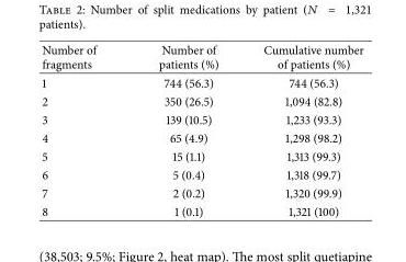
<table><thead><tr><td>Number of fragments</td><td>Number of patients (%)</td><td>Cumulative number of patients (%)</td></tr></thead><tbody><tr><td>1</td><td>744 (56.3)</td><td>744 (56.3)</td></tr><tr><td>2</td><td>350 (26.5)</td><td>1,094 (82.8)</td></tr><tr><td>3</td><td>139 (10.5)</td><td>1,233 (93.3)</td></tr><tr><td>4</td><td>65 (4.9)</td><td>1,298 (98.2)</td></tr><tr><td>5</td><td>15 (1.1)</td><td>1,313 (99.3)</td></tr><tr><td>6</td><td>5 (0.4)</td><td>1,318 (99.7)</td></tr><tr><td>7</td><td>2 (0.2)</td><td>1,320 (99.9)</td></tr><tr><td>8</td><td>1 (0.1)</td><td>1,321 (100)</td></tr></tbody></table>